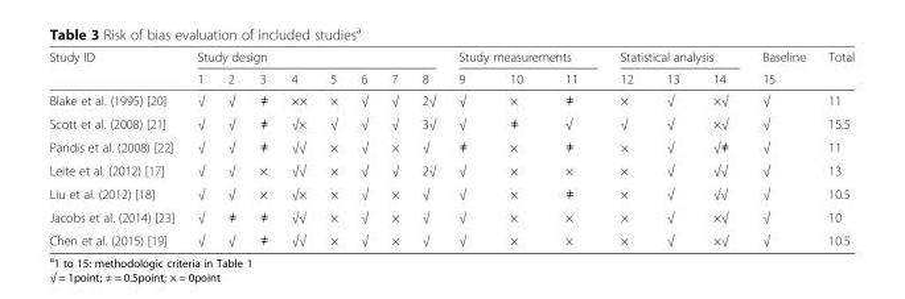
<table><thead><tr><td rowspan="2">Study ID</td><td colspan="8">Study design</td><td colspan="3">Study measurements</td><td colspan="3">Statistical analysis</td><td rowspan="2">Baseline 15</td><td rowspan="2">Total</td></tr><tr><td>1</td><td>2</td><td>3</td><td>4</td><td>5</td><td>6</td><td>7</td><td>8</td><td>9</td><td>10</td><td>11</td><td>12</td><td>13</td><td>14</td></tr></thead><tbody><tr><td>Blake et al. (1995) [20]</td><td>√</td><td>√</td><td>≠</td><td>××</td><td>×</td><td>√</td><td>√</td><td>2√</td><td>√</td><td>×</td><td>≠</td><td>×</td><td>√</td><td>×√</td><td>√</td><td>11</td></tr><tr><td>Scott et al. (2008) [21]</td><td>√</td><td>√</td><td>≠</td><td>√×</td><td>√</td><td>√</td><td>√</td><td>3√</td><td>√</td><td>≠</td><td>√</td><td>√</td><td>√</td><td>×√</td><td>√</td><td>15.5</td></tr><tr><td>Pandis et al. (2008) [22]</td><td>√</td><td>√</td><td>≠</td><td>√√</td><td>×</td><td>√</td><td>×</td><td>√</td><td>≠</td><td>×</td><td>≠</td><td>×</td><td>√</td><td>√≠</td><td>√</td><td>11</td></tr><tr><td>Leite et al. (2012) [17]</td><td>√</td><td>√</td><td>×</td><td>√√</td><td>×</td><td>√</td><td>√</td><td>2√</td><td>√</td><td>×</td><td>×</td><td>×</td><td>√</td><td>√√</td><td>√</td><td>13</td></tr><tr><td>Liu et al. (2012) [18]</td><td>√</td><td>√</td><td>×</td><td>√×</td><td>×</td><td>√</td><td>×</td><td>√</td><td>√</td><td>×</td><td>≠</td><td>×</td><td>√</td><td>√√</td><td>√</td><td>10.5</td></tr><tr><td>Jacobs et al. (2014) [23]</td><td>√</td><td>≠</td><td>≠</td><td>√√</td><td>×</td><td>√</td><td>×</td><td>√</td><td>√</td><td>×</td><td>×</td><td>×</td><td>√</td><td>×√</td><td>√</td><td>10</td></tr><tr><td>Chen et al. (2015) [19]</td><td>√</td><td>√</td><td>≠</td><td>√√</td><td>×</td><td>√</td><td>×</td><td>√</td><td>√</td><td>×</td><td>×</td><td>×</td><td>√</td><td>×√</td><td>√</td><td>10.5</td></tr></tbody></table>